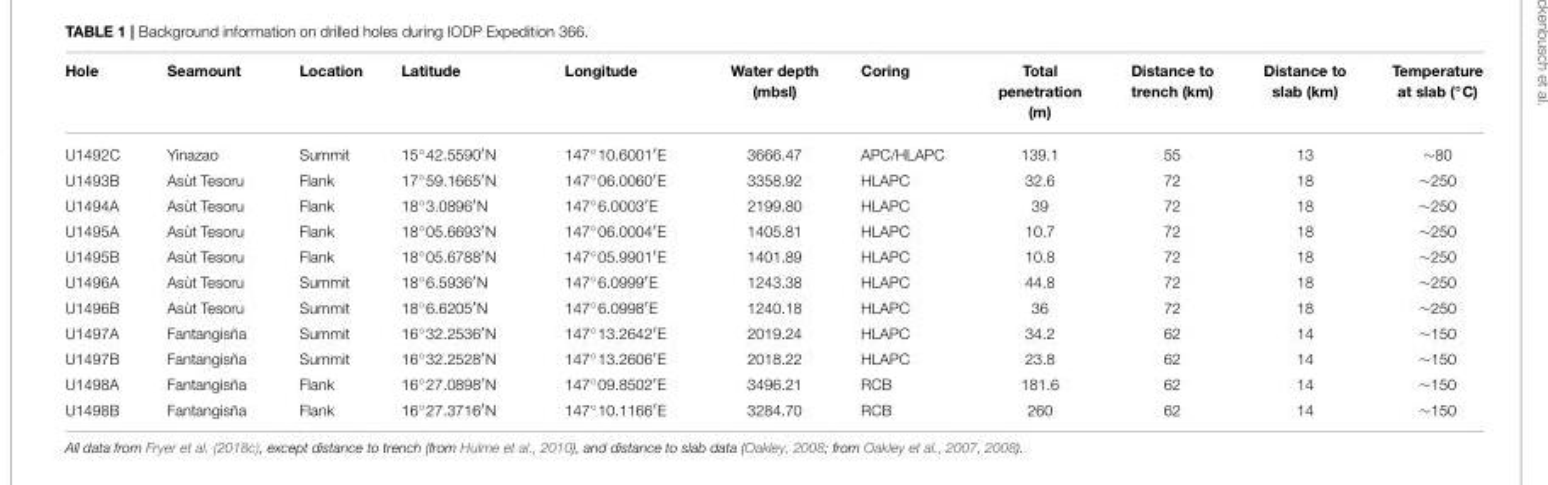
<table><thead><tr><td>Hole</td><td>Seamount</td><td>Location</td><td>Latitude</td><td>Longitude</td><td>Water depth (mbsl)</td><td>Coring</td><td>Total penetration (m)</td><td>Distance to trench (km)</td><td>Distance to slab (km)</td><td>Temperature at slab (◦C)</td></tr></thead><tbody><tr><td>U1492C</td><td>Yinazao</td><td>Summit</td><td>15◦42.5590′N</td><td>147◦10.6001′E</td><td>3666.47</td><td>APC/HLAPC</td><td>139.1</td><td>55</td><td>13</td><td>∼80</td></tr><tr><td>U1493B</td><td>Asùt Tesoru</td><td>Flank</td><td>17◦59.1665′N</td><td>147◦06.0060′E</td><td>3358.92</td><td>HLAPC</td><td>32.6</td><td>72</td><td>18</td><td>∼250</td></tr><tr><td>U1494A</td><td>Asùt Tesoru</td><td>Flank</td><td>18◦3.0896′N</td><td>147◦6.0003′E</td><td>2199.80</td><td>HLAPC</td><td>39</td><td>72</td><td>18</td><td>∼250</td></tr><tr><td>U1495A</td><td>Asùt Tesoru</td><td>Flank</td><td>18◦05.6693′N</td><td>147◦06.0004′E</td><td>1405.81</td><td>HLAPC</td><td>10.7</td><td>72</td><td>18</td><td>∼250</td></tr><tr><td>U1495B</td><td>Asùt Tesoru</td><td>Flank</td><td>18◦05.6788′N</td><td>147◦05.9901′E</td><td>1401.89</td><td>HLAPC</td><td>10.8</td><td>72</td><td>18</td><td>∼250</td></tr><tr><td>U1496A</td><td>Asùt Tesoru</td><td>Summit</td><td>18◦6.5936′N</td><td>147◦6.0999′E</td><td>1243.38</td><td>HLAPC</td><td>44.8</td><td>72</td><td>18</td><td>∼250</td></tr><tr><td>U1496B</td><td>Asùt Tesoru</td><td>Summit</td><td>18◦6.6205′N</td><td>147◦6.0998′E</td><td>1240.18</td><td>HLAPC</td><td>36</td><td>72</td><td>18</td><td>∼250</td></tr><tr><td>U1497A</td><td>Fantangisña</td><td>Summit</td><td>16◦32.2536′N</td><td>147◦13.2642′E</td><td>2019.24</td><td>HLAPC</td><td>34.2</td><td>62</td><td>14</td><td>∼150</td></tr><tr><td>U1497B</td><td>Fantangisña</td><td>Summit</td><td>16◦32.2528′N</td><td>147◦13.2606′E</td><td>2018.22</td><td>HLAPC</td><td>23.8</td><td>62</td><td>14</td><td>∼150</td></tr><tr><td>U1498A</td><td>Fantangisña</td><td>Flank</td><td>16◦27.0898′N</td><td>147◦09.8502′E</td><td>3496.21</td><td>RCB</td><td>181.6</td><td>62</td><td>14</td><td>∼150</td></tr><tr><td>U1498B</td><td>Fantangisña</td><td>Flank</td><td>16◦27.3716′N</td><td>147◦10.1166′E</td><td>3284.70</td><td>RCB</td><td>260</td><td>62</td><td>14</td><td>∼150</td></tr></tbody></table>